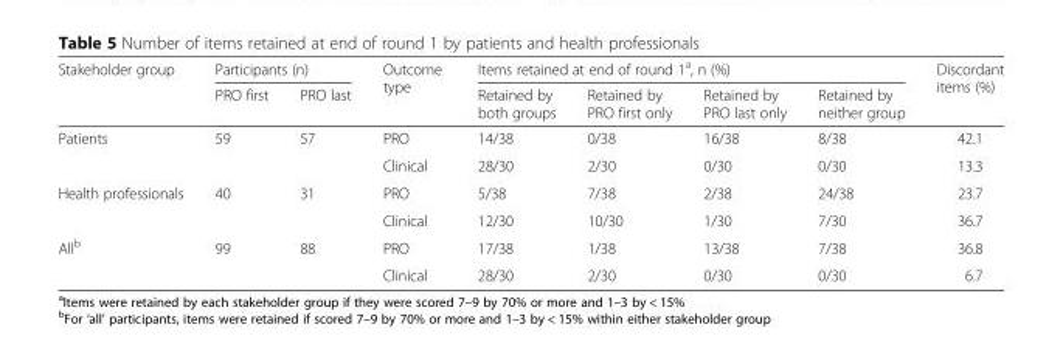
<table><thead><tr><td rowspan="2">Stakeholder group</td><td colspan="2">Participants (n)</td><td rowspan="2">Outcome type</td><td colspan="4">Items retained at end of round 1<sup>a</sup>, n (%)</td><td rowspan="2">Discordant items (%)</td></tr><tr><td>PRO first</td><td>PRO last</td><td>Retained by both groups</td><td>Retained by PRO first only</td><td>Retained by PRO last only</td><td>Retained by neither group</td></tr></thead><tbody><tr><td rowspan="2">Patients</td><td>59</td><td>57</td><td>PRO</td><td>14/38</td><td>0/38</td><td>16/38</td><td>8/38</td><td>42.1</td></tr><tr><td></td><td></td><td>Clinical</td><td>28/30</td><td>2/30</td><td>0/30</td><td>0/30</td><td>13.3</td></tr><tr><td rowspan="2">Health professionals</td><td>40</td><td>31</td><td>PRO</td><td>5/38</td><td>7/38</td><td>2/38</td><td>24/38</td><td>23.7</td></tr><tr><td></td><td></td><td>Clinical</td><td>12/30</td><td>10/30</td><td>1/30</td><td>7/30</td><td>36.7</td></tr><tr><td rowspan="2">All<sup>b</sup></td><td>99</td><td>88</td><td>PRO</td><td>17/38</td><td>1/38</td><td>13/38</td><td>7/38</td><td>36.8</td></tr><tr><td></td><td></td><td>Clinical</td><td>28/30</td><td>2/30</td><td>0/30</td><td>0/30</td><td>6.7</td></tr></tbody></table>